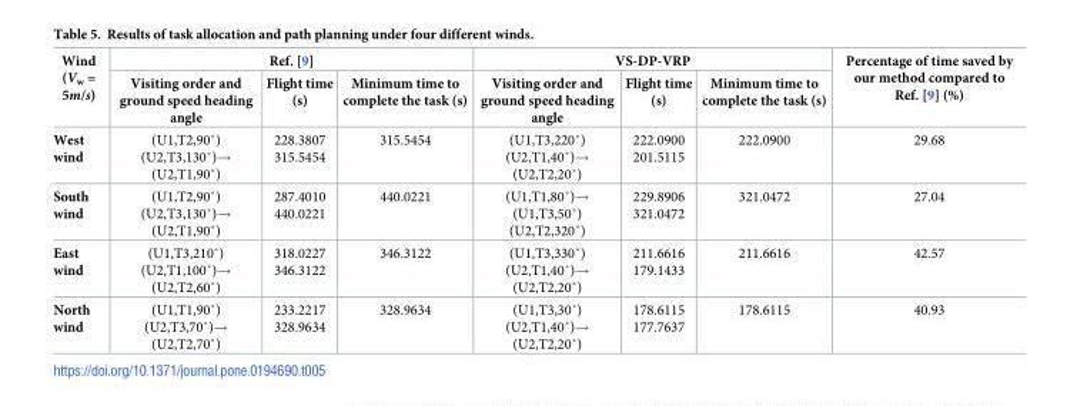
<table><thead><tr><td rowspan="2">Wind (V<sub>w</sub> = 5m/s)</td><td colspan="3">Ref. [9]</td><td colspan="3">VS-DP-VRP</td><td rowspan="2">Percentage of time saved by our method compared to Ref. [9] (%)</td></tr><tr><td>Visiting order and ground speed heading angle</td><td>Flight time (s)</td><td>Minimum time to complete the task (s)</td><td>Visiting order and ground speed heading angle</td><td>Flight time (s)</td><td>Minimum time to complete the task (s)</td></tr></thead><tbody><tr><td>West wind</td><td>(U1,T2,90˚) (U2,T3,130˚)→ (U2,T1,90˚)</td><td>228.3807 315.5454</td><td>315.5454</td><td>(U1,T3,220˚) (U2,T1,40˚)→ (U2,T2,20˚)</td><td>222.0900 201.5115</td><td>222.0900</td><td>29.68</td></tr><tr><td>South wind</td><td>(U1,T2,90˚) (U2,T3,130˚)→ (U2,T1,90˚)</td><td>287.4010 440.0221</td><td>440.0221</td><td>(U1,T1,80˚)→ (U1,T3,50˚) (U2,T2,320˚)</td><td>229.8906 321.0472</td><td>321.0472</td><td>27.04</td></tr><tr><td>East wind</td><td>(U1,T3,210˚) (U2,T1,100˚)→ (U2,T2,60˚)</td><td>318.0227 346.3122</td><td>346.3122</td><td>(U1,T3,330˚) (U2,T1,40˚)→ (U2,T2,20˚)</td><td>211.6616 179.1433</td><td>211.6616</td><td>42.57</td></tr><tr><td>North wind</td><td>(U1,T1,90˚) (U2,T3,70˚)→ (U2,T2,70˚)</td><td>233.2217 328.9634</td><td>328.9634</td><td>(U1,T3,30˚) (U2,T1,40˚)→ (U2,T2,20˚)</td><td>178.6115 177.7637</td><td>178.6115</td><td>40.93</td></tr></tbody></table>